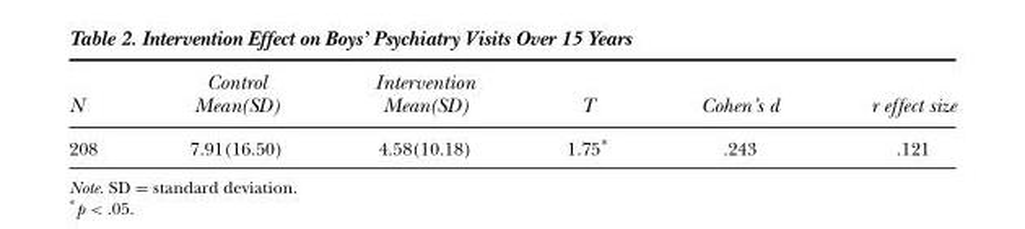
<table><thead><tr><td>N</td><td>Control Mean(SD)</td><td>Intervention Mean(SD)</td><td>T</td><td>Cohen’s d</td><td>r effect size</td></tr></thead><tbody><tr><td>208</td><td>7.91(16.50)</td><td>4.58(10.18)</td><td>1.75*</td><td>.243</td><td>.121</td></tr></tbody></table>